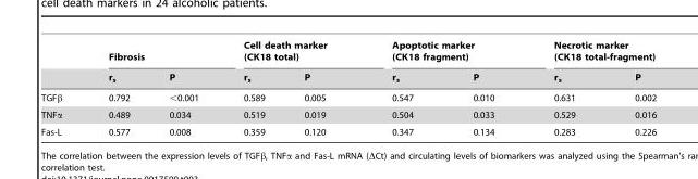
<table><thead><tr><td rowspan="2"></td><td colspan="2">Fibrosis</td><td colspan="2">Cell death marker (CK18 total)</td><td colspan="2">Apoptotic marker (CK18 fragment)</td><td colspan="2">Necrotic marker (CK18 total-fragment)</td></tr><tr><td>r<sub>s</sub></td><td>P</td><td>r<sub>s</sub></td><td>P</td><td>r<sub>s</sub></td><td>P</td><td>r<sub>s</sub></td><td>P</td></tr></thead><tbody><tr><td>TGFβ</td><td>0.792</td><td>&lt;0.001</td><td>0.589</td><td>0.005</td><td>0.547</td><td>0.010</td><td>0.631</td><td>0.002</td></tr><tr><td>TNFα</td><td>0.489</td><td>0.034</td><td>0.519</td><td>0.019</td><td>0.504</td><td>0.033</td><td>0.529</td><td>0.016</td></tr><tr><td>Fas-L</td><td>0.577</td><td>0.008</td><td>0.359</td><td>0.120</td><td>0.347</td><td>0.134</td><td>0.283</td><td>0.226</td></tr></tbody></table>